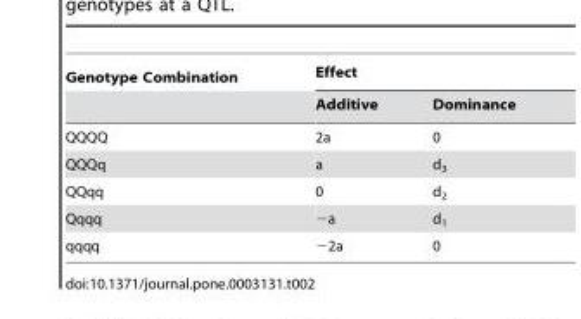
<table><thead><tr><td rowspan="2">Genotype Combination</td><td colspan="2">Effect</td></tr><tr><td>Additive</td><td>Dominance</td></tr></thead><tbody><tr><td>QQQQ</td><td>2a</td><td>0</td></tr><tr><td>QQQq</td><td>a</td><td>d<sub>3</sub></td></tr><tr><td>QQqq</td><td>0</td><td>d<sub>2</sub></td></tr><tr><td>Qqqq</td><td>−a</td><td>d<sub>1</sub></td></tr><tr><td>qqqq</td><td>−2a</td><td>0</td></tr></tbody></table>